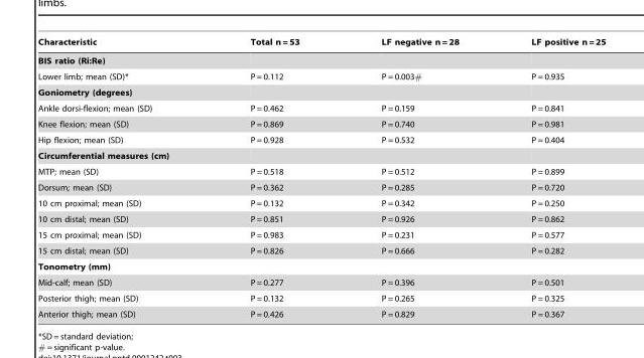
<table><thead><tr><td>Characteristic</td><td>Total n = 53</td><td>LF negative n = 28</td><td>LF positive n = 25</td></tr></thead><tbody><tr><td colspan="4">BIS ratio (Ri:Re)</td></tr><tr><td>Lower limb; mean (SD)*</td><td>P = 0.112</td><td>P = 0.003#</td><td>P = 0.935</td></tr><tr><td colspan="4">Goniometry (degrees)</td></tr><tr><td>Ankle dorsi-flexion; mean (SD)</td><td>P = 0.462</td><td>P = 0.159</td><td>P = 0.841</td></tr><tr><td>Knee flexion; mean (SD)</td><td>P = 0.869</td><td>P = 0.740</td><td>P = 0.981</td></tr><tr><td>Hip flexion; mean (SD)</td><td>P = 0.928</td><td>P = 0.532</td><td>P = 0.404</td></tr><tr><td colspan="4">Circumferential measures (cm)</td></tr><tr><td>MTP; mean (SD)</td><td>P = 0.518</td><td>P = 0.512</td><td>P = 0.899</td></tr><tr><td>Dorsum; mean (SD)</td><td>P = 0.362</td><td>P = 0.285</td><td>P = 0.720</td></tr><tr><td>10 cm proximal; mean (SD)</td><td>P = 0.132</td><td>P = 0.342</td><td>P = 0.250</td></tr><tr><td>10 cm distal; mean (SD)</td><td>P = 0.851</td><td>P = 0.926</td><td>P = 0.862</td></tr><tr><td>15 cm proximal; mean (SD)</td><td>P = 0.983</td><td>P = 0.231</td><td>P = 0.577</td></tr><tr><td>15 cm distal; mean (SD)</td><td>P = 0.826</td><td>P = 0.666</td><td>P = 0.282</td></tr><tr><td colspan="4">Tonometry (mm)</td></tr><tr><td>Mid-calf; mean (SD)</td><td>P = 0.277</td><td>P = 0.396</td><td>P = 0.501</td></tr><tr><td>Posterior thigh; mean (SD)</td><td>P = 0.132</td><td>P = 0.265</td><td>P = 0.325</td></tr><tr><td>Anterior thigh; mean (SD)</td><td>P = 0.426</td><td>P = 0.829</td><td>P = 0.367</td></tr></tbody></table>